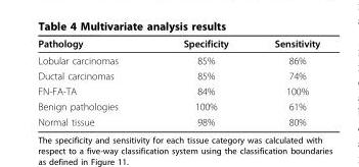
<table><thead><tr><td>Pathology</td><td>Specificity</td><td>Sensitivity</td></tr></thead><tbody><tr><td>Lobular carcinomas</td><td>85%</td><td>86%</td></tr><tr><td>Ductal carcinomas</td><td>85%</td><td>74%</td></tr><tr><td>FN-FA-TA</td><td>84%</td><td>100%</td></tr><tr><td>Benign pathologies</td><td>100%</td><td>61%</td></tr><tr><td>Normal tissue</td><td>98%</td><td>80%</td></tr></tbody></table>